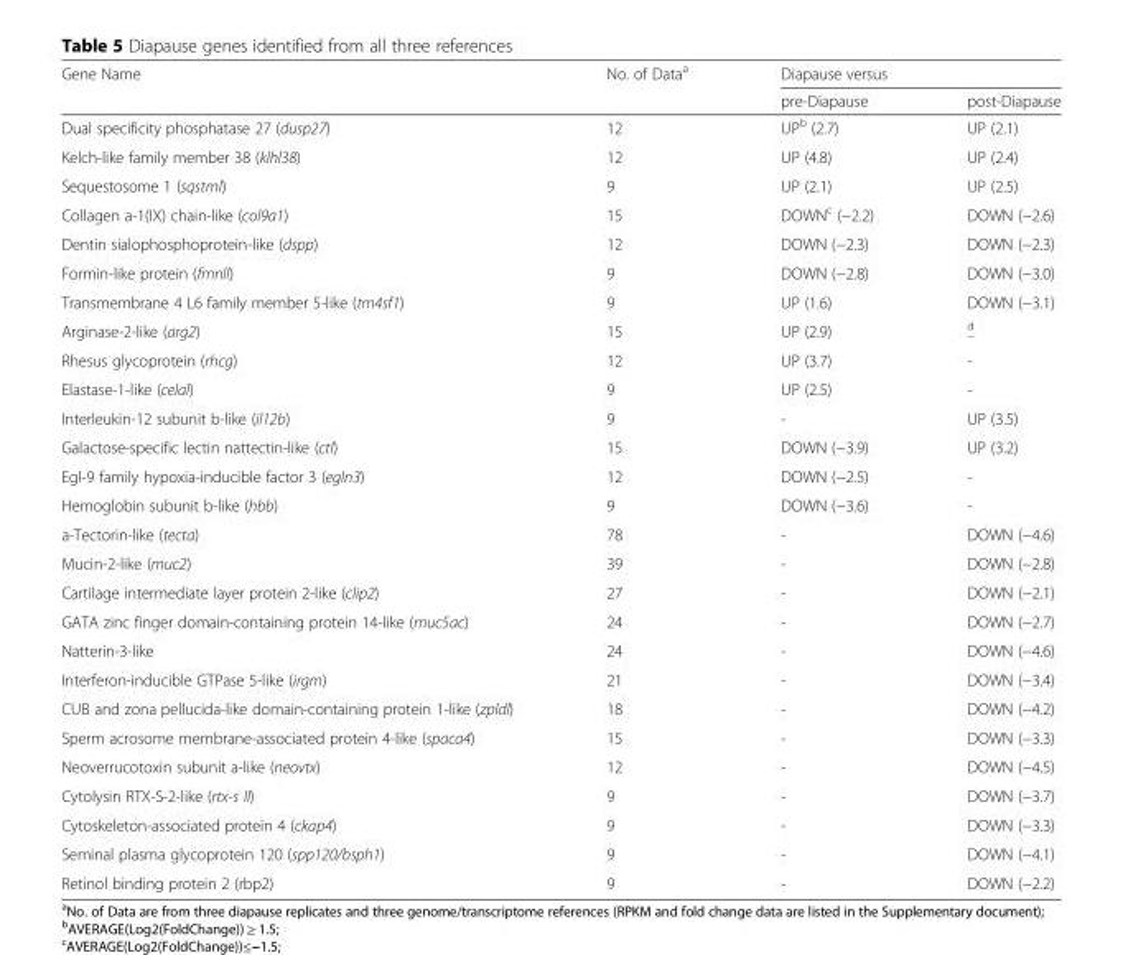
<table><thead><tr><td rowspan="2">Gene Name</td><td rowspan="2">No. of Data<sup>a</sup></td><td colspan="2">Diapause versus</td></tr><tr><td>pre-Diapause</td><td>post-Diapause</td></tr></thead><tbody><tr><td>Dual specificity phosphatase 27 (dusp27)</td><td>12</td><td>UP<sup>b</sup> (2.7)</td><td>UP (2.1)</td></tr><tr><td>Kelch-like family member 38 (klhl38)</td><td>12</td><td>UP (4.8)</td><td>UP (2.4)</td></tr><tr><td>Sequestosome 1 (sqstml)</td><td>9</td><td>UP (2.1)</td><td>UP (2.5)</td></tr><tr><td>Collagen a-1(IX) chain-like (col9a1)</td><td>15</td><td>DOWN<sup>c</sup> (−2.2)</td><td>DOWN (−2.6)</td></tr><tr><td>Dentin sialophosphoprotein-like (dspp)</td><td>12</td><td>DOWN (−2.3)</td><td>DOWN (−2.3)</td></tr><tr><td>Formin-like protein (fmnll)</td><td>9</td><td>DOWN (−2.8)</td><td>DOWN (−3.0)</td></tr><tr><td>Transmembrane 4 L6 family member 5-like (tm4sf1)</td><td>9</td><td>UP (1.6)</td><td>DOWN (−3.1)</td></tr><tr><td>Arginase-2-like (arg2)</td><td>15</td><td>UP (2.9)</td><td><sub>−</sub> <sup>d</sup></td></tr><tr><td>Rhesus glycoprotein (rhcg)</td><td>12</td><td>UP (3.7)</td><td>-</td></tr><tr><td>Elastase-1-like (celal)</td><td>9</td><td>UP (2.5)</td><td>-</td></tr><tr><td>Interleukin-12 subunit b-like (il12b)</td><td>9</td><td>-</td><td>UP (3.5)</td></tr><tr><td>Galactose-specific lectin nattectin-like (ctl)</td><td>15</td><td>DOWN (−3.9)</td><td>UP (3.2)</td></tr><tr><td>Egl-9 family hypoxia-inducible factor 3 (egln3)</td><td>12</td><td>DOWN (−2.5)</td><td>-</td></tr><tr><td>Hemoglobin subunit b-like (hbb)</td><td>9</td><td>DOWN (−3.6)</td><td>-</td></tr><tr><td>a-Tectorin-like (tecta)</td><td>78</td><td>-</td><td>DOWN (−4.6)</td></tr><tr><td>Mucin-2-like (muc2)</td><td>39</td><td>-</td><td>DOWN (−2.8)</td></tr><tr><td>Cartilage intermediate layer protein 2-like (clip2)</td><td>27</td><td>-</td><td>DOWN (−2.1)</td></tr><tr><td>GATA zinc finger domain-containing protein 14-like (muc5ac)</td><td>24</td><td>-</td><td>DOWN (−2.7)</td></tr><tr><td>Natterin-3-like</td><td>24</td><td>-</td><td>DOWN (−4.6)</td></tr><tr><td>Interferon-inducible GTPase 5-like (irgm)</td><td>21</td><td>-</td><td>DOWN (−3.4)</td></tr><tr><td>CUB and zona pellucida-like domain-containing protein 1-like (zpldl)</td><td>18</td><td>-</td><td>DOWN (−4.2)</td></tr><tr><td>Sperm acrosome membrane-associated protein 4-like (spaca4)</td><td>15</td><td>-</td><td>DOWN (−3.3)</td></tr><tr><td>Neoverrucotoxin subunit a-like (neovtx)</td><td>12</td><td>-</td><td>DOWN (−4.5)</td></tr><tr><td>Cytolysin RTX-S-2-like (rtx-s II)</td><td>9</td><td>-</td><td>DOWN (−3.7)</td></tr><tr><td>Cytoskeleton-associated protein 4 (ckap4)</td><td>9</td><td>-</td><td>DOWN (−3.3)</td></tr><tr><td>Seminal plasma glycoprotein 120 (spp120/bsph1)</td><td>9</td><td>-</td><td>DOWN (−4.1)</td></tr><tr><td>Retinol binding protein 2 (rbp2)</td><td>9</td><td>-</td><td>DOWN (−2.2)</td></tr></tbody></table>